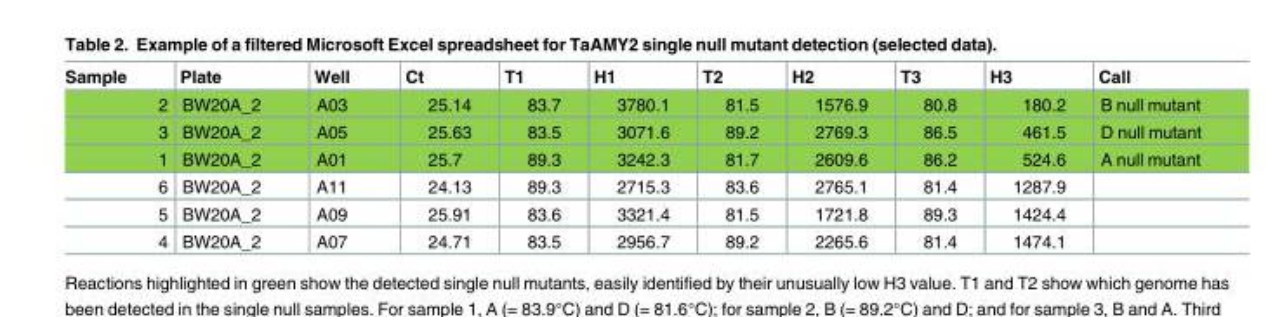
<table><thead><tr><td>Sample</td><td>Plate</td><td>Well</td><td>Ct</td><td>T1</td><td>H1</td><td>T2</td><td>H2</td><td>T3</td><td>H3</td><td>Call</td></tr></thead><tbody><tr><td>2</td><td>BW20A_2</td><td>A03</td><td>25.14</td><td>83.7</td><td>3780.1</td><td>81.5</td><td>1576.9</td><td>80.8</td><td>180.2</td><td>B null mutant</td></tr><tr><td>3</td><td>BW20A_2</td><td>A05</td><td>25.63</td><td>83.5</td><td>3071.6</td><td>89.2</td><td>2769.3</td><td>86.5</td><td>461.5</td><td>D null mutant</td></tr><tr><td>1</td><td>BW20A_2</td><td>A01</td><td>25.7</td><td>89.3</td><td>3242.3</td><td>81.7</td><td>2609.6</td><td>86.2</td><td>524.6</td><td>A null mutant</td></tr><tr><td>6</td><td>BW20A_2</td><td>A11</td><td>24.13</td><td>89.3</td><td>2715.3</td><td>83.6</td><td>2765.1</td><td>81.4</td><td>1287.9</td><td></td></tr><tr><td>5</td><td>BW20A_2</td><td>A09</td><td>25.91</td><td>83.6</td><td>3321.4</td><td>81.5</td><td>1721.8</td><td>89.3</td><td>1424.4</td><td></td></tr><tr><td>4</td><td>BW20A_2</td><td>A07</td><td>24.71</td><td>83.5</td><td>2956.7</td><td>89.2</td><td>2265.6</td><td>81.4</td><td>1474.1</td><td></td></tr></tbody></table>